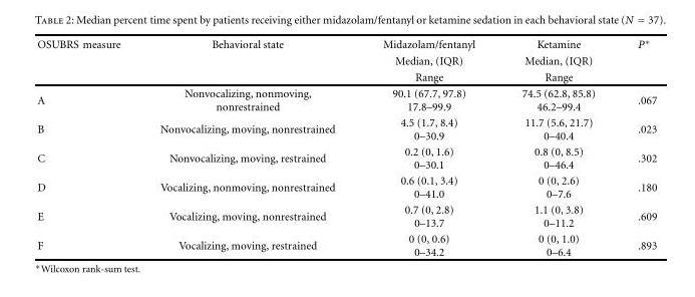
<table><thead><tr><td rowspan="3">OSUBRS measure</td><td rowspan="3">Behavioral state</td><td rowspan="3">Midazolam/fentanyl Median, (IQR) Range</td><td rowspan="3">Ketamine Median, (IQR) Range</td><td rowspan="3">P∗</td></tr><tr></tr><tr></tr></thead><tbody><tr><td>A</td><td>Nonvocalizing, nonmoving, nonrestrained</td><td>90.1 (67.7, 97.8) 17.8–99.9</td><td>74.5 (62.8, 85.8) 46.2–99.4</td><td>.067</td></tr><tr><td>B</td><td>Nonvocalizing, moving, nonrestrained</td><td>4.5 (1.7, 8.4) 0–30.9</td><td>11.7 (5.6, 21.7) 0–40.4</td><td>.023</td></tr><tr><td>C</td><td>Nonvocalizing, moving, restrained</td><td>0.2 (0, 1.6) 0–30.1</td><td>0.8 (0, 8.5) 0–46.4</td><td>.302</td></tr><tr><td>D</td><td>Vocalizing, nonmoving, nonrestrained</td><td>0.6 (0.1, 3.4) 0–41.0</td><td>0 (0, 2.6) 0–7.6</td><td>.180</td></tr><tr><td>E</td><td>Vocalizing, moving, nonrestrained</td><td>0.7 (0, 2.8) 0–13.7</td><td>1.1 (0, 3.8) 0–11.2</td><td>.609</td></tr><tr><td>F</td><td>Vocalizing, moving, restrained</td><td>0 (0, 0.6) 0–34.2</td><td>0 (0, 1.0) 0–6.4</td><td>.893</td></tr></tbody></table>